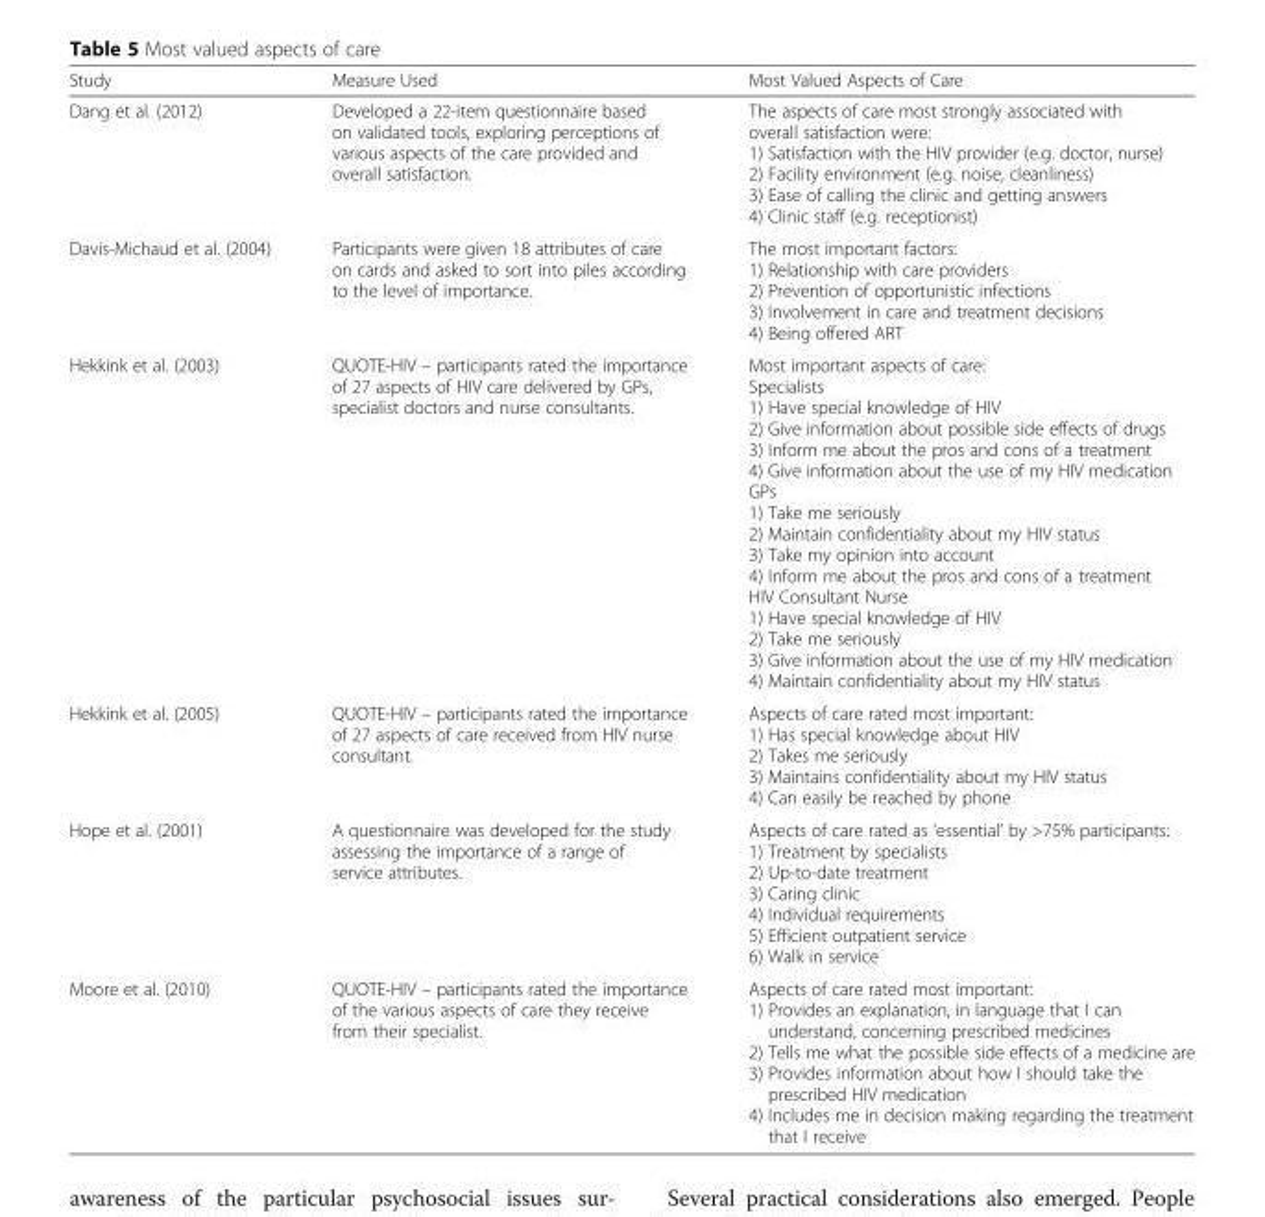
<table><thead><tr><td>Study</td><td>Measure Used</td><td>Most Valued Aspects of Care</td></tr></thead><tbody><tr><td>Dang et al. (2012)</td><td>Developed a 22-item questionnaire based on validated tools, exploring perceptions of various aspects of the care provided and overall satisfaction.</td><td>The aspects of care most strongly associated with overall satisfaction were: 1) Satisfaction with the HIV provider (e.g. doctor, nurse) 2) Facility environment (e.g. noise, cleanliness) 3) Ease of calling the clinic and getting answers 4) Clinic staff (e.g. receptionist)</td></tr><tr><td>Davis-Michaud et al. (2004)</td><td>Participants were given 18 attributes of care on cards and asked to sort into piles according to the level of importance.</td><td>The most important factors: 1) Relationship with care providers 2) Prevention of opportunistic infections 3) Involvement in care and treatment decisions 4) Being offered ART</td></tr><tr><td>Hekkink et al. (2003)</td><td>QUOTE-HIV – participants rated the importance of 27 aspects of HIV care delivered by GPs, specialist doctors and nurse consultants.</td><td>Most important aspects of care: Specialists 1) Have special knowledge of HIV 2) Give information about possible side effects of drugs 3) Inform me about the pros and cons of a treatment 4) Give information about the use of my HIV medication GPs 1) Take me seriously 2) Maintain confidentiality about my HIV status 3) Take my opinion into account 4) Inform me about the pros and cons of a treatment HIV Consultant Nurse 1) Have special knowledge of HIV 2) Take me seriously 3) Give information about the use of my HIV medication 4) Maintain confidentiality about my HIV status</td></tr><tr><td>Hekkink et al. (2005)</td><td>QUOTE-HIV – participants rated the importance of 27 aspects of care received from HIV nurse consultant.</td><td>Aspects of care rated most important: 1) Has special knowledge about HIV 2) Takes me seriously 3) Maintains confidentiality about my HIV status 4) Can easily be reached by phone</td></tr><tr><td>Hope et al. (2001)</td><td>A questionnaire was developed for the study assessing the importance of a range of service attributes.</td><td>Aspects of care rated as ‘essential’ by &gt;75% participants: 1) Treatment by specialists 2) Up-to-date treatment 3) Caring clinic 4) Individual requirements 5) Efficient outpatient service 6) Walk in service</td></tr><tr><td>Moore et al. (2010)</td><td>QUOTE-HIV – participants rated the importance of the various aspects of care they receive from their specialist.</td><td>Aspects of care rated most important: 1) Provides an explanation, in language that I can understand, concerning prescribed medicines 2) Tells me what the possible side effects of a medicine are 3) Provides information about how I should take the prescribed HIV medication 4) Includes me in decision making regarding the treatment that I receive</td></tr></tbody></table>